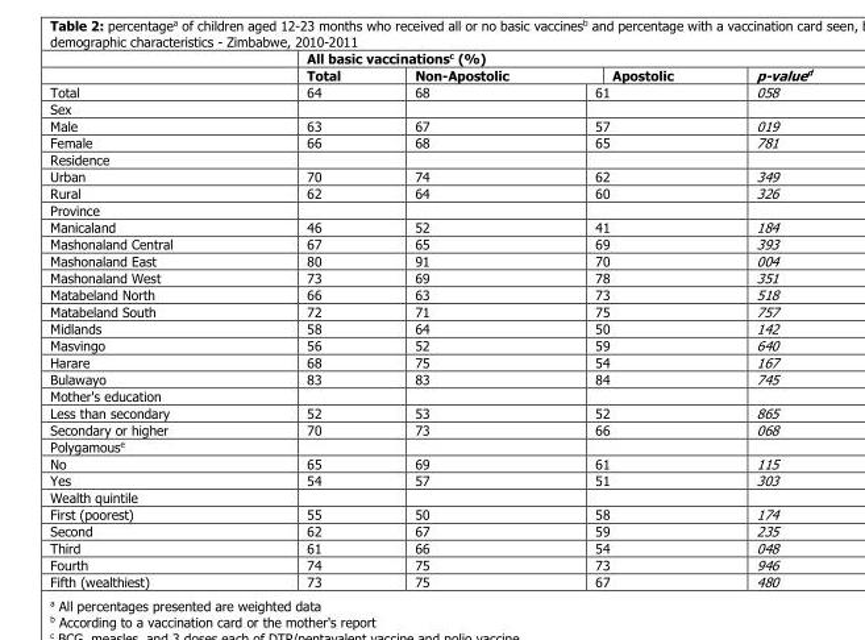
<table><thead><tr><td rowspan="2"></td><td colspan="4">All basic vaccinations<sup>c</sup> (%)</td></tr><tr><td>Total</td><td>Non-Apostolic</td><td>Apostolic</td><td>p-value<sup>d</sup></td></tr></thead><tbody><tr><td>Total</td><td>64</td><td>68</td><td>61</td><td>058</td></tr><tr><td colspan="5">Sex</td></tr><tr><td>Male</td><td>63</td><td>67</td><td>57</td><td>019</td></tr><tr><td>Female</td><td>66</td><td>68</td><td>65</td><td>781</td></tr><tr><td colspan="5">Residence</td></tr><tr><td>Urban</td><td>70</td><td>74</td><td>62</td><td>349</td></tr><tr><td>Rural</td><td>62</td><td>64</td><td>60</td><td>326</td></tr><tr><td colspan="5">Province</td></tr><tr><td>Manicaland</td><td>46</td><td>52</td><td>41</td><td>184</td></tr><tr><td>Mashonaland Central</td><td>67</td><td>65</td><td>69</td><td>393</td></tr><tr><td>Mashonaland East</td><td>80</td><td>91</td><td>70</td><td>004</td></tr><tr><td>Mashonaland West</td><td>73</td><td>69</td><td>78</td><td>351</td></tr><tr><td>Matabeland North</td><td>66</td><td>63</td><td>73</td><td>518</td></tr><tr><td>Matabeland South</td><td>72</td><td>71</td><td>75</td><td>757</td></tr><tr><td>Midlands</td><td>58</td><td>64</td><td>50</td><td>142</td></tr><tr><td>Masvingo</td><td>56</td><td>52</td><td>59</td><td>640</td></tr><tr><td>Harare</td><td>68</td><td>75</td><td>54</td><td>167</td></tr><tr><td>Bulawayo</td><td>83</td><td>83</td><td>84</td><td>745</td></tr><tr><td colspan="5">Mother&#x27;s education</td></tr><tr><td>Less than secondary</td><td>52</td><td>53</td><td>52</td><td>865</td></tr><tr><td>Secondary or higher</td><td>70</td><td>73</td><td>66</td><td>068</td></tr><tr><td colspan="5">Polygamous<sup>e</sup></td></tr><tr><td>No</td><td>65</td><td>69</td><td>61</td><td>115</td></tr><tr><td>Yes</td><td>54</td><td>57</td><td>51</td><td>303</td></tr><tr><td colspan="5">Wealth quintile</td></tr><tr><td>First (poorest)</td><td>55</td><td>50</td><td>58</td><td>174</td></tr><tr><td>Second</td><td>62</td><td>67</td><td>59</td><td>235</td></tr><tr><td>Third</td><td>61</td><td>66</td><td>54</td><td>048</td></tr><tr><td>Fourth</td><td>74</td><td>75</td><td>73</td><td>946</td></tr><tr><td>Fifth (wealthiest)</td><td>73</td><td>75</td><td>67</td><td>480</td></tr></tbody></table>